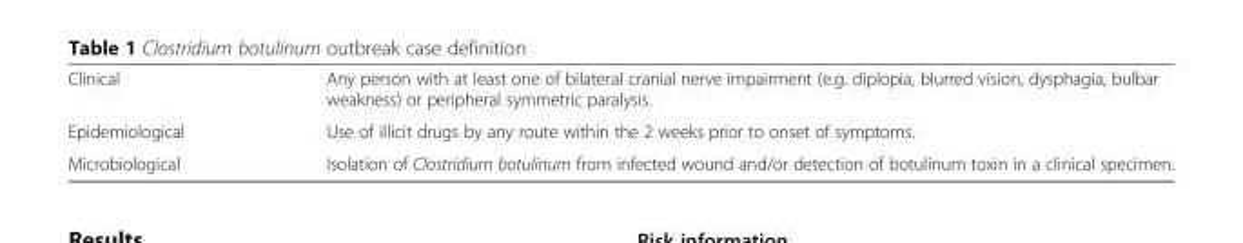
<table><tbody><tr><td>Clinical</td><td>Any person with at least one of bilateral cranial nerve impairment (e.g. diplopia, blurred vision, dysphagia, bulbar weakness) or peripheral symmetric paralysis.</td></tr><tr><td>Epidemiological</td><td>Use of illicit drugs by any route within the 2 weeks prior to onset of symptoms.</td></tr><tr><td>Microbiological</td><td>Isolation of Clostridium botulinum from infected wound and/or detection of botulinum toxin in a clinical specimen.</td></tr></tbody></table>